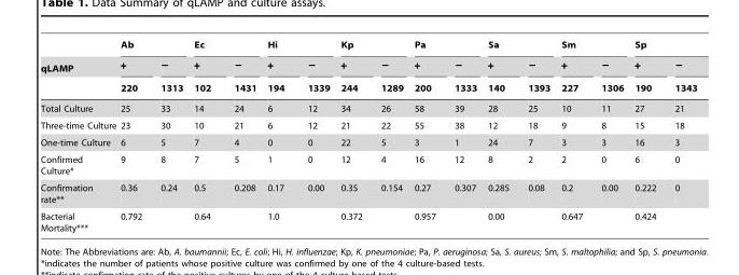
<table><thead><tr><td rowspan="3">qLAMP</td><td colspan="2">Ab</td><td colspan="2">Ec</td><td colspan="2">Hi</td><td colspan="2">Kp</td><td colspan="2">Pa</td><td colspan="2">Sa</td><td colspan="2">Sm</td><td colspan="2">Sp</td></tr><tr><td rowspan="2">+ 220</td><td rowspan="2">− 1313</td><td rowspan="2">+ 102</td><td rowspan="2">− 1431</td><td rowspan="2">+ 194</td><td rowspan="2">− 1339</td><td rowspan="2">+ 244</td><td rowspan="2">− 1289</td><td rowspan="2">+ 200</td><td rowspan="2">− 1333</td><td rowspan="2">+ 140</td><td rowspan="2">− 1393</td><td rowspan="2">+ 227</td><td rowspan="2">− 1306</td><td rowspan="2">+ 190</td><td rowspan="2">− 1343</td></tr><tr></tr></thead><tbody><tr><td>Total Culture</td><td>25</td><td>33</td><td>14</td><td>24</td><td>6</td><td>12</td><td>34</td><td>26</td><td>58</td><td>39</td><td>28</td><td>25</td><td>10</td><td>11</td><td>27</td><td>21</td></tr><tr><td>Three-time Culture</td><td>23</td><td>30</td><td>10</td><td>21</td><td>6</td><td>12</td><td>21</td><td>22</td><td>55</td><td>38</td><td>12</td><td>18</td><td>9</td><td>8</td><td>15</td><td>18</td></tr><tr><td>One-time Culture</td><td>6</td><td>5</td><td>7</td><td>4</td><td>0</td><td>0</td><td>22</td><td>5</td><td>3</td><td>1</td><td>24</td><td>7</td><td>3</td><td>3</td><td>16</td><td>3</td></tr><tr><td>Confirmed Culture*</td><td>9</td><td>8</td><td>7</td><td>5</td><td>1</td><td>0</td><td>12</td><td>4</td><td>16</td><td>12</td><td>8</td><td>2</td><td>2</td><td>0</td><td>6</td><td>0</td></tr><tr><td>Confirmation rate**</td><td>0.36</td><td>0.24</td><td>0.5</td><td>0.208</td><td>0.17</td><td>0.00</td><td>0.35</td><td>0.154</td><td>0.27</td><td>0.307</td><td>0.285</td><td>0.08</td><td>0.2</td><td>0.00</td><td>0.222</td><td>0</td></tr><tr><td>Bacterial Mortality***</td><td colspan="2">0.792</td><td colspan="2">0.64</td><td colspan="2">1.0</td><td colspan="2">0.372</td><td colspan="2">0.957</td><td colspan="2">0.00</td><td colspan="2">0.647</td><td colspan="2">0.424</td></tr></tbody></table>